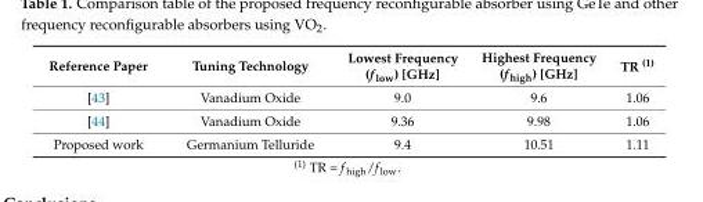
<table><thead><tr><td>Reference Paper</td><td>Tuning Technology</td><td>Lowest Frequency (f<sub>low</sub>) [GHz]</td><td>Highest Frequency (f<sub>high</sub>) [GHz]</td><td>TR <sup>(1)</sup></td></tr></thead><tbody><tr><td>[43]</td><td>Vanadium Oxide</td><td>9.0</td><td>9.6</td><td>1.06</td></tr><tr><td>[44]</td><td>Vanadium Oxide</td><td>9.36</td><td>9.98</td><td>1.06</td></tr><tr><td>Proposed work</td><td>Germanium Telluride</td><td>9.4</td><td>10.51</td><td>1.11</td></tr></tbody></table>